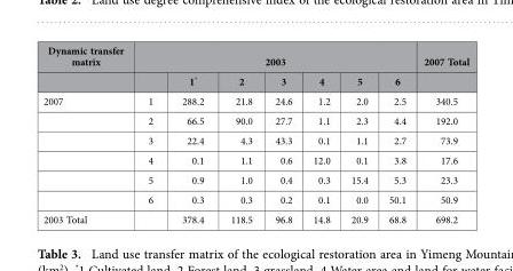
<table><thead><tr><td rowspan="2">Dynamic transfer matrix</td><td colspan="7">2003</td><td rowspan="2">2007 Total</td></tr><tr><td></td><td>1*</td><td>2</td><td>3</td><td>4</td><td>5</td><td>6</td></tr></thead><tbody><tr><td rowspan="6">2007</td><td>1</td><td>288.2</td><td>21.8</td><td>24.6</td><td>1.2</td><td>2.0</td><td>2.5</td><td>340.5</td></tr><tr><td>2</td><td>66.5</td><td>90.0</td><td>27.7</td><td>1.1</td><td>2.3</td><td>4.4</td><td>192.0</td></tr><tr><td>3</td><td>22.4</td><td>4.3</td><td>43.3</td><td>0.1</td><td>1.1</td><td>2.7</td><td>73.9</td></tr><tr><td>4</td><td>0.1</td><td>1.1</td><td>0.6</td><td>12.0</td><td>0.1</td><td>3.8</td><td>17.6</td></tr><tr><td>5</td><td>0.9</td><td>1.0</td><td>0.4</td><td>0.3</td><td>15.4</td><td>5.3</td><td>23.3</td></tr><tr><td>6</td><td>0.3</td><td>0.3</td><td>0.2</td><td>0.1</td><td>0.0</td><td>50.1</td><td>50.9</td></tr><tr><td>2003 Total</td><td></td><td>378.4</td><td>118.5</td><td>96.8</td><td>14.8</td><td>20.9</td><td>68.8</td><td>698.2</td></tr></tbody></table>